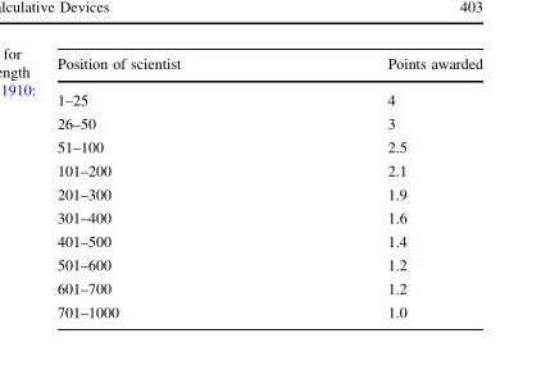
<table><thead><tr><td>Position of scientist</td><td>Points awarded</td></tr></thead><tbody><tr><td>1–25</td><td>4</td></tr><tr><td>26–50</td><td>3</td></tr><tr><td>51–100</td><td>2.5</td></tr><tr><td>101–200</td><td>2.1</td></tr><tr><td>201–300</td><td>1.9</td></tr><tr><td>301–400</td><td>1.6</td></tr><tr><td>401–500</td><td>1.4</td></tr><tr><td>501–600</td><td>1.2</td></tr><tr><td>601–700</td><td>1.2</td></tr><tr><td>701–1000</td><td>1.0</td></tr></tbody></table>